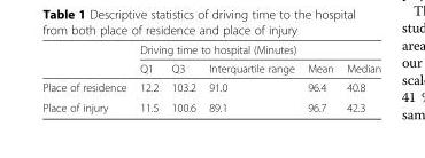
<table><thead><tr><td rowspan="2"></td><td colspan="5">Driving time to hospital (Minutes)</td></tr><tr><td>Q1</td><td>Q3</td><td>Interquartile range</td><td>Mean</td><td>Median</td></tr></thead><tbody><tr><td>Place of residence</td><td>12.2</td><td>103.2</td><td>91.0</td><td>96.4</td><td>40.8</td></tr><tr><td>Place of injury</td><td>11.5</td><td>100.6</td><td>89.1</td><td>96.7</td><td>42.3</td></tr></tbody></table>